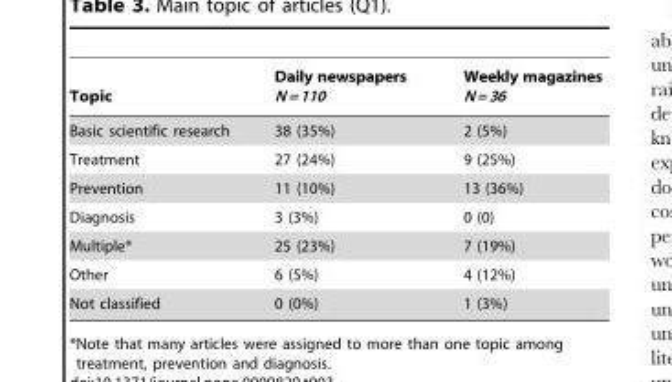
<table><thead><tr><td>Topic</td><td>Daily newspapers N=110</td><td>Weekly magazines N=36</td></tr></thead><tbody><tr><td>Basic scientific research</td><td>38 (35%)</td><td>2 (5%)</td></tr><tr><td>Treatment</td><td>27 (24%)</td><td>9 (25%)</td></tr><tr><td>Prevention</td><td>11 (10%)</td><td>13 (36%)</td></tr><tr><td>Diagnosis</td><td>3 (3%)</td><td>0 (0)</td></tr><tr><td>Multiple*</td><td>25 (23%)</td><td>7 (19%)</td></tr><tr><td>Other</td><td>6 (5%)</td><td>4 (12%)</td></tr><tr><td>Not classified</td><td>0 (0%)</td><td>1 (3%)</td></tr></tbody></table>